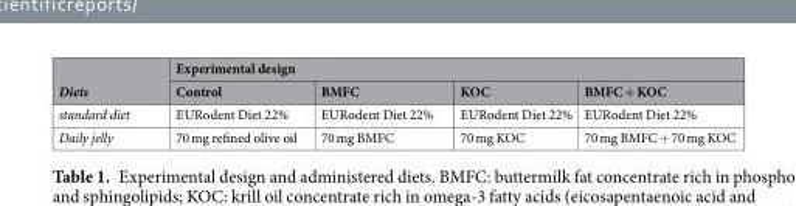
<table><thead><tr><td rowspan="2">Diets</td><td colspan="4">Experimental design</td></tr><tr><td>Control</td><td>BMFC</td><td>KOC</td><td>BMFC + KOC</td></tr></thead><tbody><tr><td>standard diet</td><td>EURodent Diet 22%</td><td>EURodent Diet 22%</td><td>EURodent Diet 22%</td><td>EURodent Diet 22%</td></tr><tr><td>Daily jelly</td><td>70 mg refined olive oil</td><td>70 mg BMFC</td><td>70 mg KOC</td><td>70 mg BMFC + 70 mg KOC</td></tr></tbody></table>